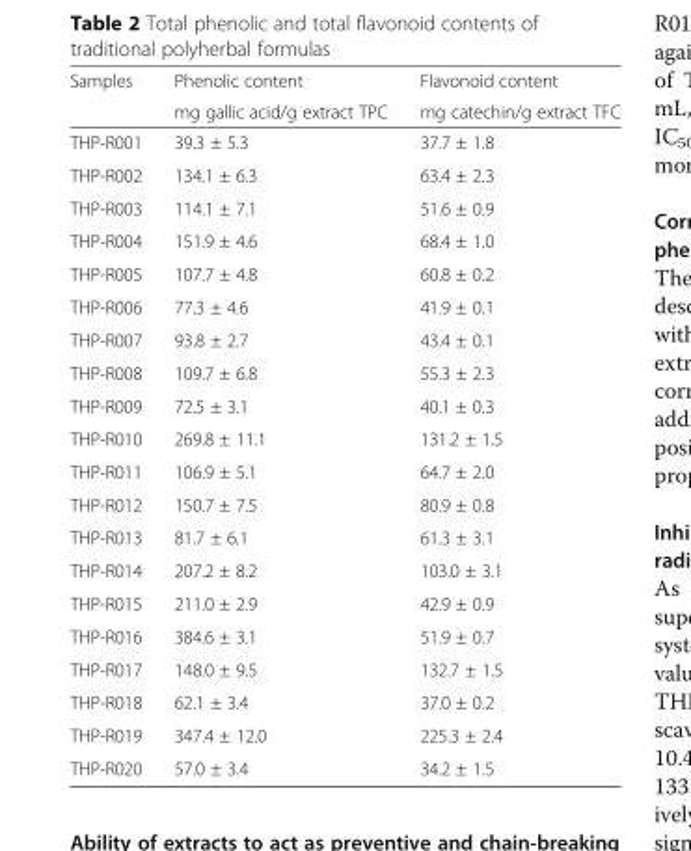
<table><thead><tr><td rowspan="2">Samples</td><td rowspan="2">Phenolic content mg gallic acid/g extract TPC</td><td rowspan="2">Flavonoid content mg catechin/g extract TFC</td></tr><tr></tr></thead><tbody><tr><td>THP-R001</td><td>39.3 ± 5.3</td><td>37.7 ± 1.8</td></tr><tr><td>THP-R002</td><td>134.1 ± 6.3</td><td>63.4 ± 2.3</td></tr><tr><td>THP-R003</td><td>114.1 ± 7.1</td><td>51.6 ± 0.9</td></tr><tr><td>THP-R004</td><td>151.9 ± 4.6</td><td>68.4 ± 1.0</td></tr><tr><td>THP-R005</td><td>107.7 ± 4.8</td><td>60.8 ± 0.2</td></tr><tr><td>THP-R006</td><td>77.3 ± 4.6</td><td>41.9 ± 0.1</td></tr><tr><td>THP-R007</td><td>93.8 ± 2.7</td><td>43.4 ± 0.1</td></tr><tr><td>THP-R008</td><td>109.7 ± 6.8</td><td>55.3 ± 2.3</td></tr><tr><td>THP-R009</td><td>72.5 ± 3.1</td><td>40.1 ± 0.3</td></tr><tr><td>THP-R010</td><td>269.8 ± 11.1</td><td>131.2 ± 1.5</td></tr><tr><td>THP-R011</td><td>106.9 ± 5.1</td><td>64.7 ± 2.0</td></tr><tr><td>THP-R012</td><td>150.7 ± 7.5</td><td>80.9 ± 0.8</td></tr><tr><td>THP-R013</td><td>81.7 ± 6.1</td><td>61.3 ± 3.1</td></tr><tr><td>THP-R014</td><td>207.2 ± 8.2</td><td>103.0 ± 3.1</td></tr><tr><td>THP-R015</td><td>211.0 ± 2.9</td><td>42.9 ± 0.9</td></tr><tr><td>THP-R016</td><td>384.6 ± 3.1</td><td>51.9 ± 0.7</td></tr><tr><td>THP-R017</td><td>148.0 ± 9.5</td><td>132.7 ± 1.5</td></tr><tr><td>THP-R018</td><td>62.1 ± 3.4</td><td>37.0 ± 0.2</td></tr><tr><td>THP-R019</td><td>347.4 ± 12.0</td><td>225.3 ± 2.4</td></tr><tr><td>THP-R020</td><td>57.0 ± 3.4</td><td>34.2 ± 1.5</td></tr></tbody></table>